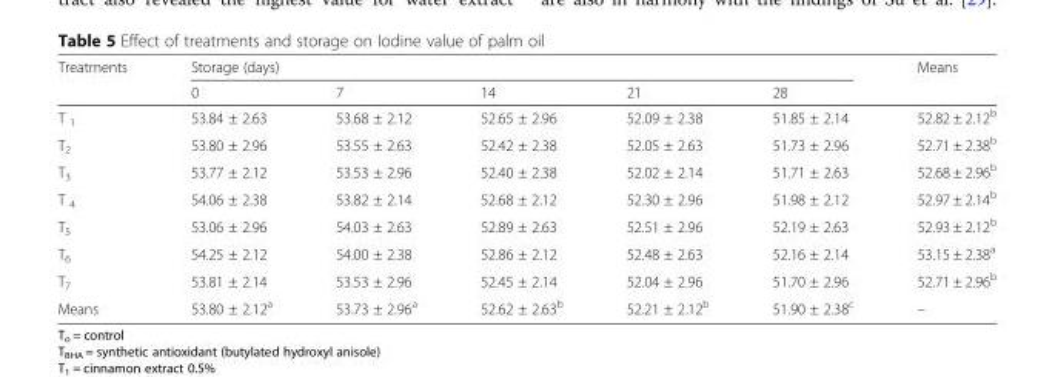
<table><thead><tr><td rowspan="2">Treatments</td><td colspan="5">Storage (days)</td><td rowspan="2">Means</td></tr><tr><td>0</td><td>7</td><td>14</td><td>21</td><td>28</td></tr></thead><tbody><tr><td>T <sub>1</sub></td><td>53.84 ± 2.63</td><td>53.68 ± 2.12</td><td>52.65 ± 2.96</td><td>52.09 ± 2.38</td><td>51.85 ± 2.14</td><td>52.82 ± 2.12<sup>b</sup></td></tr><tr><td>T<sub>2</sub></td><td>53.80 ± 2.96</td><td>53.55 ± 2.63</td><td>52.42 ± 2.38</td><td>52.05 ± 2.63</td><td>51.73 ± 2.96</td><td>52.71 ± 2.38<sup>b</sup></td></tr><tr><td>T<sub>3</sub></td><td>53.77 ± 2.12</td><td>53.53 ± 2.96</td><td>52.40 ± 2.38</td><td>52.02 ± 2.14</td><td>51.71 ± 2.63</td><td>52.68 ± 2.96<sup>b</sup></td></tr><tr><td>T <sub>4</sub></td><td>54.06 ± 2.38</td><td>53.82 ± 2.14</td><td>52.68 ± 2.12</td><td>52.30 ± 2.96</td><td>51.98 ± 2.12</td><td>52.97 ± 2.14<sup>b</sup></td></tr><tr><td>T<sub>5</sub></td><td>53.06 ± 2.96</td><td>54.03 ± 2.63</td><td>52.89 ± 2.63</td><td>52.51 ± 2.96</td><td>52.19 ± 2.63</td><td>52.93 ± 2.12<sup>b</sup></td></tr><tr><td>T<sub>6</sub></td><td>54.25 ± 2.12</td><td>54.00 ± 2.38</td><td>52.86 ± 2.12</td><td>52.48 ± 2.63</td><td>52.16 ± 2.14</td><td>53.15 ± 2.38<sup>a</sup></td></tr><tr><td>T<sub>7</sub></td><td>53.81 ± 2.14</td><td>53.53 ± 2.96</td><td>52.45 ± 2.14</td><td>52.04 ± 2.96</td><td>51.70 ± 2.96</td><td>52.71 ± 2.96<sup>b</sup></td></tr><tr><td>Means</td><td>53.80 ± 2.12<sup>a</sup></td><td>53.73 ± 2.96<sup>a</sup></td><td>52.62 ± 2.63<sup>b</sup></td><td>52.21 ± 2.12<sup>b</sup></td><td>51.90 ± 2.38<sup>c</sup></td><td>–</td></tr></tbody></table>